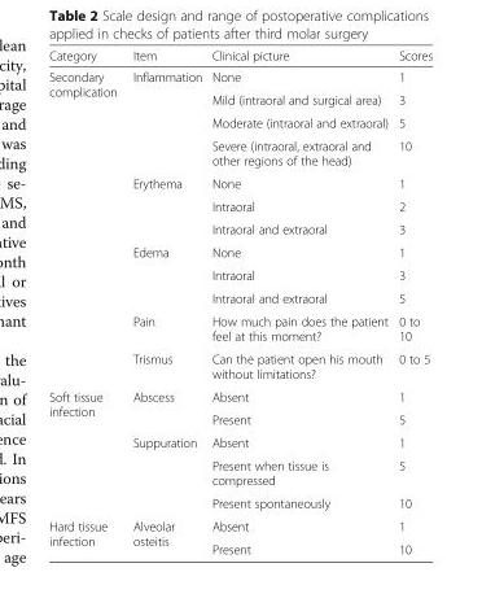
<table><thead><tr><td>Category</td><td>Item</td><td>Clinical picture</td><td>Scores</td></tr></thead><tbody><tr><td rowspan="12">Secondary complication</td><td rowspan="4">Inflammation</td><td>None</td><td>1</td></tr><tr><td>Mild (intraoral and surgical area)</td><td>3</td></tr><tr><td>Moderate (intraoral and extraoral)</td><td>5</td></tr><tr><td>Severe (intraoral, extraoral and other regions of the head)</td><td>10</td></tr><tr><td rowspan="3">Erythema</td><td>None</td><td>1</td></tr><tr><td>Intraoral</td><td>2</td></tr><tr><td>Intraoral and extraoral</td><td>3</td></tr><tr><td rowspan="3">Edema</td><td>None</td><td>1</td></tr><tr><td>Intraoral</td><td>3</td></tr><tr><td>Intraoral and extraoral</td><td>5</td></tr><tr><td>Pain</td><td>How much pain does the patient feel at this moment?</td><td>0 to 10</td></tr><tr><td>Trismus</td><td>Can the patient open his mouth without limitations?</td><td>0 to 5</td></tr><tr><td rowspan="5">Soft tissue infection</td><td rowspan="2">Abscess</td><td>Absent</td><td>1</td></tr><tr><td>Present</td><td>5</td></tr><tr><td rowspan="3">Suppuration</td><td>Absent</td><td>1</td></tr><tr><td>Present when tissue is compressed</td><td>5</td></tr><tr><td>Present spontaneously</td><td>10</td></tr><tr><td rowspan="2">Hard tissue infection</td><td rowspan="2">Alveolar osteitis</td><td>Absent</td><td>1</td></tr><tr><td>Present</td><td>10</td></tr></tbody></table>